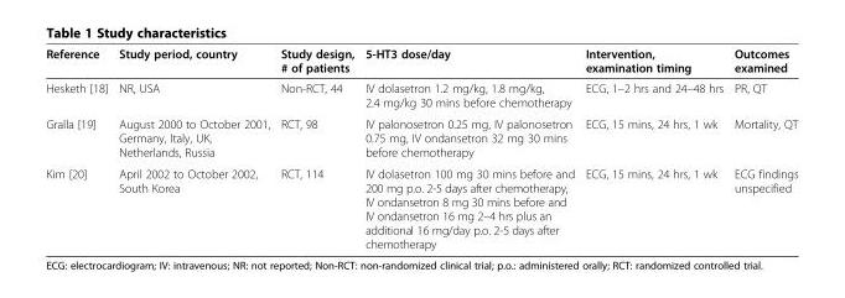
<table><thead><tr><td>Reference</td><td>Study period, country</td><td>Study design, # of patients</td><td>5-HT3 dose/day</td><td>Intervention, examination timing</td><td>Outcomes examined</td></tr></thead><tbody><tr><td>Hesketh [18]</td><td>NR, USA</td><td>Non-RCT, 44</td><td>IV dolasetron 1.2 mg/kg, 1.8 mg/kg, 2.4 mg/kg 30 mins before chemotherapy</td><td>ECG, 1–2 hrs and 24–48 hrs</td><td>PR, QT</td></tr><tr><td>Gralla [19]</td><td>August 2000 to October 2001, Germany, Italy, UK, Netherlands, Russia</td><td>RCT, 98</td><td>IV palonosetron 0.25 mg, IV palonosetron 0.75 mg, IV ondansetron 32 mg 30 mins before chemotherapy</td><td>ECG, 15 mins, 24 hrs, 1 wk</td><td>Mortality, QT</td></tr><tr><td>Kim [20]</td><td>April 2002 to October 2002, South Korea</td><td>RCT, 114</td><td>IV dolasetron 100 mg 30 mins before and 200 mg p.o. 2-5 days after chemotherapy, IV ondansetron 8 mg 30 mins before and IV ondansetron 16 mg 2–4 hrs plus an additional 16 mg/day p.o. 2-5 days after chemotherapy</td><td>ECG, 15 mins, 24 hrs, 1 wk</td><td>ECG findings unspecified</td></tr></tbody></table>